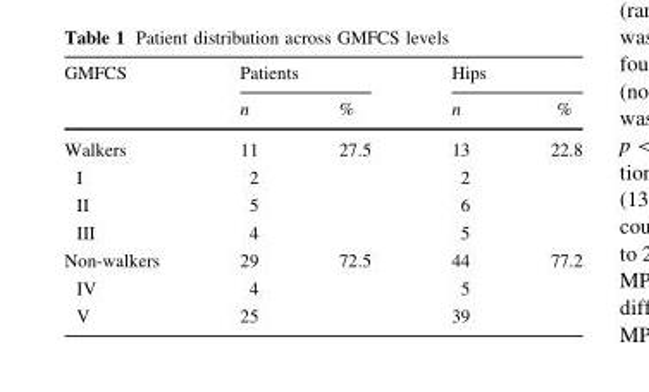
<table><thead><tr><td rowspan="2">GMFCS</td><td colspan="2">Patients</td><td colspan="2">Hips</td></tr><tr><td>n</td><td>%</td><td>n</td><td>%</td></tr></thead><tbody><tr><td>Walkers</td><td>11</td><td>27.5</td><td>13</td><td>22.8</td></tr><tr><td>I</td><td>2</td><td rowspan="3"></td><td>2</td><td rowspan="3"></td></tr><tr><td>II</td><td>5</td><td>6</td></tr><tr><td>III</td><td>4</td><td>5</td></tr><tr><td>Non-walkers</td><td>29</td><td>72.5</td><td>44</td><td>77.2</td></tr><tr><td>IV</td><td>4</td><td rowspan="2"></td><td>5</td><td rowspan="2"></td></tr><tr><td>V</td><td>25</td><td>39</td></tr></tbody></table>